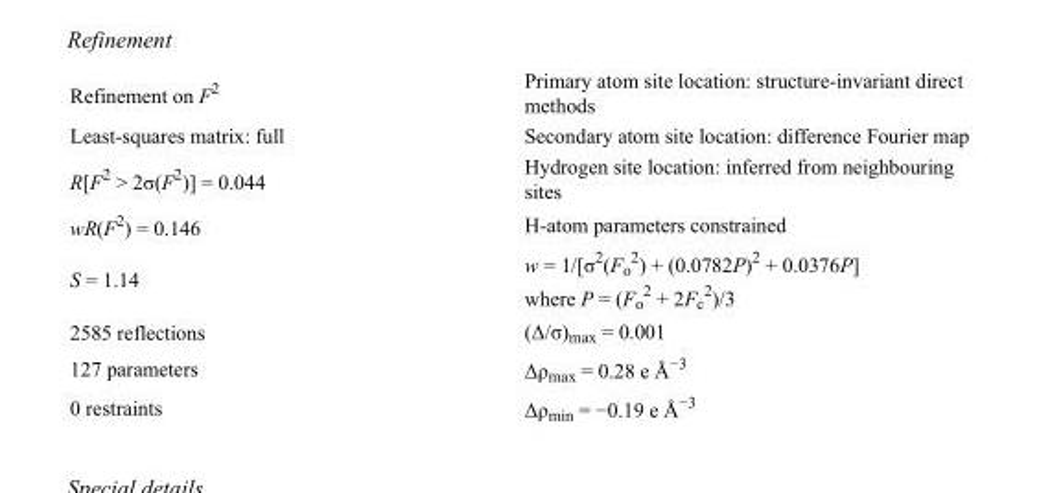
<table><tbody><tr><td>Refinement on F<sup>2</sup></td><td>Primary atom site location: structure-invariant direct methods</td></tr><tr><td>Least-squares matrix: full</td><td>Secondary atom site location: difference Fourier map</td></tr><tr><td>R[F<sup>2</sup> &gt; 2σ(F<sup>2</sup>)] = 0.044</td><td>Hydrogen site location: inferred from neighbouring sites</td></tr><tr><td>wR(F<sup>2</sup>) = 0.146</td><td>H-atom parameters constrained</td></tr><tr><td>S = 1.14</td><td>w = 1/[σ<sup>2</sup>(F<sub>o</sub> <sup>2</sup>) + (0.0782P)<sup>2</sup> + 0.0376P] where P = (F<sub>o</sub> <sup>2</sup> + 2F<sub>c</sub> <sup>2</sup>)/3</td></tr><tr><td>2585 reflections</td><td>(Δ/σ)<sub>max</sub> = 0.001</td></tr><tr><td>127 parameters</td><td>Δρ<sub>max</sub> = 0.28 e Å<sup>−3</sup></td></tr><tr><td>0 restraints</td><td>Δρ<sub>min</sub> = −0.19 e Å<sup>−3</sup></td></tr></tbody></table>